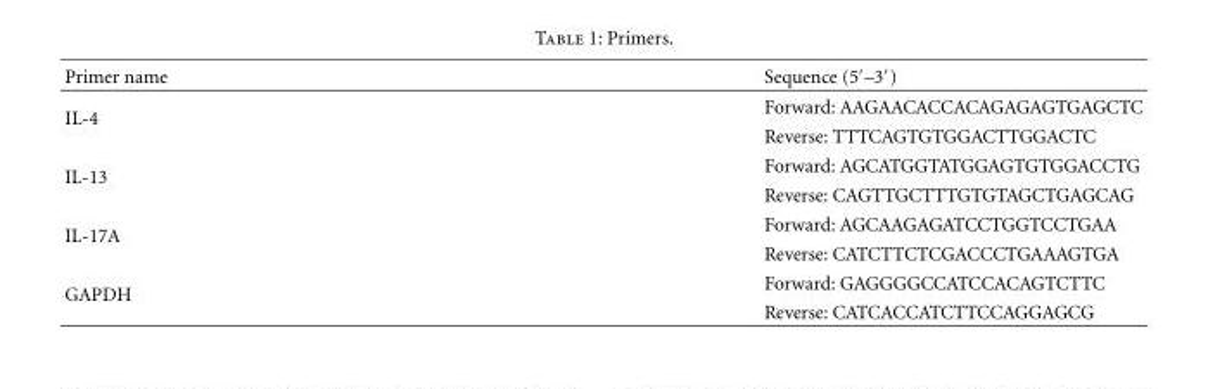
<table><thead><tr><td>Primer name</td><td>Sequence (5′–3′)</td></tr></thead><tbody><tr><td rowspan="2">IL-4</td><td>Forward: AAGAACACCACAGAGAGTGAGCTC</td></tr><tr><td>Reverse: TTTCAGTGTGGACTTGGACTC</td></tr><tr><td rowspan="2">IL-13</td><td>Forward: AGCATGGTATGGAGTGTGGACCTG</td></tr><tr><td>Reverse: CAGTTGCTTTGTGTAGCTGAGCAG</td></tr><tr><td rowspan="2">IL-17A</td><td>Forward: AGCAAGAGATCCTGGTCCTGAA</td></tr><tr><td>Reverse: CATCTTCTCGACCCTGAAAGTGA</td></tr><tr><td rowspan="2">GAPDH</td><td>Forward: GAGGGGCCATCCACAGTCTTC</td></tr><tr><td>Reverse: CATCACCATCTTCCAGGAGCG</td></tr></tbody></table>